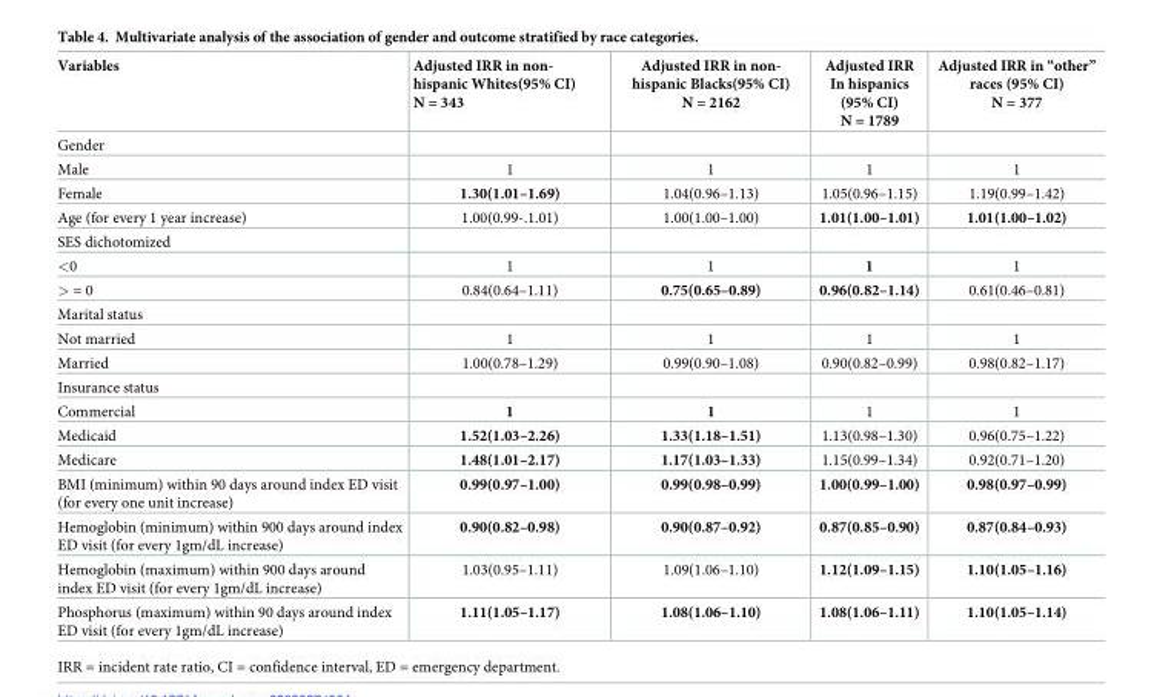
<table><thead><tr><td>Variables</td><td>Adjusted IRR in non- hispanic Whites(95% CI) N = 343</td><td>Adjusted IRR in non- hispanic Blacks(95% CI) N = 2162</td><td>Adjusted IRR In hispanics (95% CI) N = 1789</td><td>Adjusted IRR in “other” races (95% CI) N = 377</td></tr></thead><tbody><tr><td colspan="5">Gender</td></tr><tr><td>Male</td><td>1</td><td>1</td><td>1</td><td>1</td></tr><tr><td>Female</td><td>1.30(1.01–1.69)</td><td>1.04(0.96–1.13)</td><td>1.05(0.96–1.15)</td><td>1.19(0.99–1.42)</td></tr><tr><td>Age (for every 1 year increase)</td><td>1.00(0.99-.1.01)</td><td>1.00(1.00–1.00)</td><td>1.01(1.00–1.01)</td><td>1.01(1.00–1.02)</td></tr><tr><td colspan="5">SES dichotomized</td></tr><tr><td>&lt;0</td><td>1</td><td>1</td><td>1</td><td>1</td></tr><tr><td>&gt; = 0</td><td>0.84(0.64–1.11)</td><td>0.75(0.65–0.89)</td><td>0.96(0.82–1.14)</td><td>0.61(0.46–0.81)</td></tr><tr><td colspan="5">Marital status</td></tr><tr><td>Not married</td><td>1</td><td>1</td><td>1</td><td>1</td></tr><tr><td>Married</td><td>1.00(0.78–1.29)</td><td>0.99(0.90–1.08)</td><td>0.90(0.82–0.99)</td><td>0.98(0.82–1.17)</td></tr><tr><td colspan="5">Insurance status</td></tr><tr><td>Commercial</td><td>1</td><td>1</td><td>1</td><td>1</td></tr><tr><td>Medicaid</td><td>1.52(1.03–2.26)</td><td>1.33(1.18–1.51)</td><td>1.13(0.98–1.30)</td><td>0.96(0.75–1.22)</td></tr><tr><td>Medicare</td><td>1.48(1.01–2.17)</td><td>1.17(1.03–1.33)</td><td>1.15(0.99–1.34)</td><td>0.92(0.71–1.20)</td></tr><tr><td>BMI (minimum) within 90 days around index ED visit (for every one unit increase)</td><td>0.99(0.97–1.00)</td><td>0.99(0.98–0.99)</td><td>1.00(0.99–1.00)</td><td>0.98(0.97–0.99)</td></tr><tr><td>Hemoglobin (minimum) within 900 days around index ED visit (for every 1gm/dL increase)</td><td>0.90(0.82–0.98)</td><td>0.90(0.87–0.92)</td><td>0.87(0.85–0.90)</td><td>0.87(0.84–0.93)</td></tr><tr><td>Hemoglobin (maximum) within 900 days around index ED visit (for every 1gm/dL increase)</td><td>1.03(0.95–1.11)</td><td>1.09(1.06–1.10)</td><td>1.12(1.09–1.15)</td><td>1.10(1.05–1.16)</td></tr><tr><td>Phosphorus (maximum) within 90 days around index ED visit (for every 1gm/dL increase)</td><td>1.11(1.05–1.17)</td><td>1.08(1.06–1.10)</td><td>1.08(1.06–1.11)</td><td>1.10(1.05–1.14)</td></tr></tbody></table>